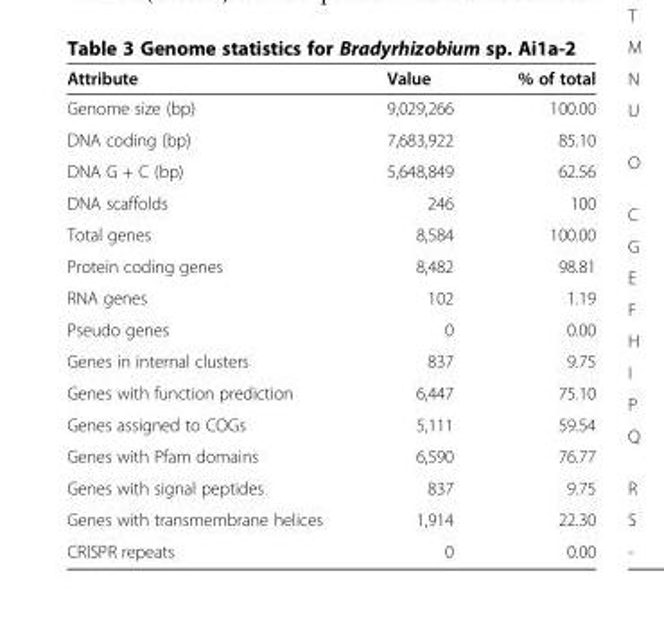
<table><thead><tr><td>Attribute</td><td>Value</td><td>% of total</td></tr></thead><tbody><tr><td>Genome size (bp)</td><td>9,029,266</td><td>100.00</td></tr><tr><td>DNA coding (bp)</td><td>7,683,922</td><td>85.10</td></tr><tr><td>DNA G + C (bp)</td><td>5,648,849</td><td>62.56</td></tr><tr><td>DNA scaffolds</td><td>246</td><td>100</td></tr><tr><td>Total genes</td><td>8,584</td><td>100.00</td></tr><tr><td>Protein coding genes</td><td>8,482</td><td>98.81</td></tr><tr><td>RNA genes</td><td>102</td><td>1.19</td></tr><tr><td>Pseudo genes</td><td>0</td><td>0.00</td></tr><tr><td>Genes in internal clusters</td><td>837</td><td>9.75</td></tr><tr><td>Genes with function prediction</td><td>6,447</td><td>75.10</td></tr><tr><td>Genes assigned to COGs</td><td>5,111</td><td>59.54</td></tr><tr><td>Genes with Pfam domains</td><td>6,590</td><td>76.77</td></tr><tr><td>Genes with signal peptides</td><td>837</td><td>9.75</td></tr><tr><td>Genes with transmembrane helices</td><td>1,914</td><td>22.30</td></tr><tr><td>CRISPR repeats</td><td>0</td><td>0.00</td></tr></tbody></table>